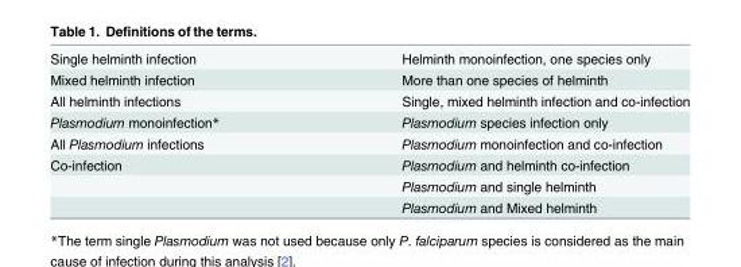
<table><tbody><tr><td>Single helminth infection</td><td>Helminth monoinfection, one species only</td></tr><tr><td>Mixed helminth infection</td><td>More than one species of helminth</td></tr><tr><td>All helminth infections</td><td>Single, mixed helminth infection and co-infection</td></tr><tr><td>Plasmodium monoinfection*</td><td>Plasmodium species infection only</td></tr><tr><td>All Plasmodium infections</td><td>Plasmodium monoinfection and co-infection</td></tr><tr><td rowspan="3">Co-infection</td><td>Plasmodium and helminth co-infection</td></tr><tr><td>Plasmodium and single helminth</td></tr><tr><td>Plasmodium and Mixed helminth</td></tr></tbody></table>